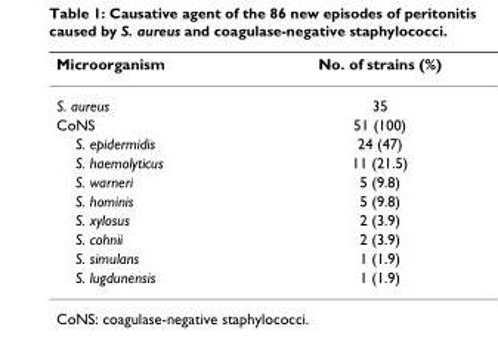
<table><thead><tr><td>Microorganism</td><td>No. of strains (%)</td></tr></thead><tbody><tr><td>S. aureus</td><td>35</td></tr><tr><td>CoNS</td><td>51 (100)</td></tr><tr><td>S. epidermidis</td><td>24 (47)</td></tr><tr><td>S. haemolyticus</td><td>11 (21.5)</td></tr><tr><td>S. warneri</td><td>5 (9.8)</td></tr><tr><td>S. hominis</td><td>5 (9.8)</td></tr><tr><td>S. xylosus</td><td>2 (3.9)</td></tr><tr><td>S. cohnii</td><td>2 (3.9)</td></tr><tr><td>S. simulans</td><td>1 (1.9)</td></tr><tr><td>S. lugdunensis</td><td>1 (1.9)</td></tr></tbody></table>